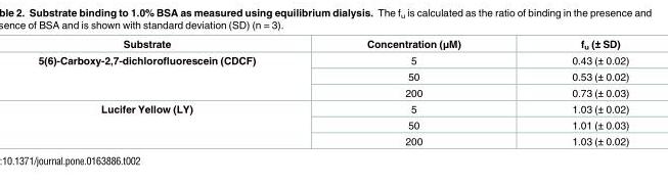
<table><thead><tr><td>Substrate</td><td>Concentration (μM)</td><td>f<sub>u</sub> (± SD)</td></tr></thead><tbody><tr><td rowspan="3">5(6)-Carboxy-2,7-dichlorofluorescein (CDCF)</td><td>5</td><td>0.43 (± 0.02)</td></tr><tr><td>50</td><td>0.53 (± 0.02)</td></tr><tr><td>200</td><td>0.73 (± 0.03)</td></tr><tr><td rowspan="3">Lucifer Yellow (LY)</td><td>5</td><td>1.03 (± 0.02)</td></tr><tr><td>50</td><td>1.01 (± 0.03)</td></tr><tr><td>200</td><td>1.03 (± 0.02)</td></tr></tbody></table>